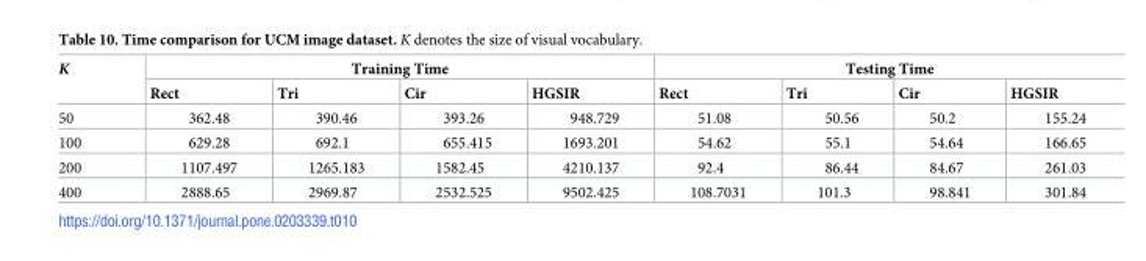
<table><thead><tr><td rowspan="2">K</td><td colspan="4">Training Time</td><td colspan="4">Testing Time</td></tr><tr><td>Rect</td><td>Tri</td><td>Cir</td><td>HGSIR</td><td>Rect</td><td>Tri</td><td>Cir</td><td>HGSIR</td></tr></thead><tbody><tr><td>50</td><td>362.48</td><td>390.46</td><td>393.26</td><td>948.729</td><td>51.08</td><td>50.56</td><td>50.2</td><td>155.24</td></tr><tr><td>100</td><td>629.28</td><td>692.1</td><td>655.415</td><td>1693.201</td><td>54.62</td><td>55.1</td><td>54.64</td><td>166.65</td></tr><tr><td>200</td><td>1107.497</td><td>1265.183</td><td>1582.45</td><td>4210.137</td><td>92.4</td><td>86.44</td><td>84.67</td><td>261.03</td></tr><tr><td>400</td><td>2888.65</td><td>2969.87</td><td>2532.525</td><td>9502.425</td><td>108.7031</td><td>101.3</td><td>98.841</td><td>301.84</td></tr></tbody></table>